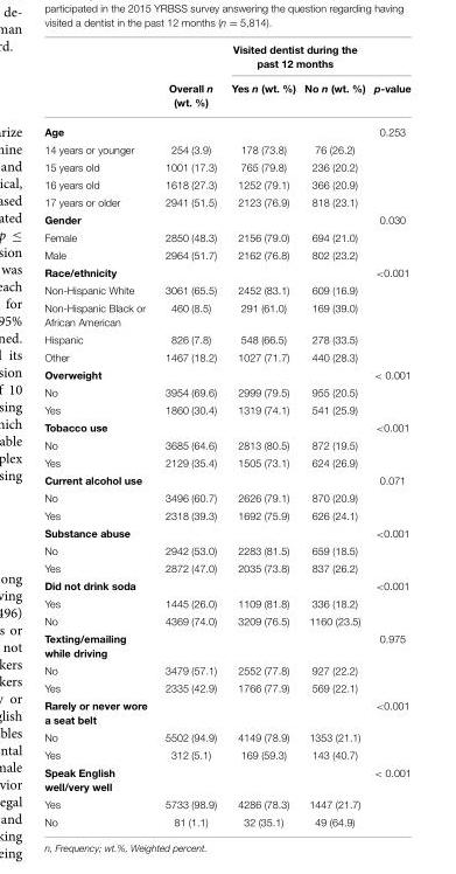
<table><thead><tr><td rowspan="2"></td><td rowspan="2">Overall n (wt. %)</td><td colspan="3">Visited dentist during the past 12 months</td></tr><tr><td>Yes n (wt. %)</td><td>No n (wt. %)</td><td>p-value</td></tr></thead><tbody><tr><td>Age</td><td></td><td></td><td></td><td>0.253</td></tr><tr><td>14 years or younger</td><td>254 (3.9)</td><td>178 (73.8)</td><td>76 (26.2)</td><td></td></tr><tr><td>15 years old</td><td>1001 (17.3)</td><td>765 (79.8)</td><td>236 (20.2)</td><td></td></tr><tr><td>16 years old</td><td>1618 (27.3)</td><td>1252 (79.1)</td><td>366 (20.9)</td><td></td></tr><tr><td>17 years or older</td><td>2941 (51.5)</td><td>2123 (76.9)</td><td>818 (23.1)</td><td></td></tr><tr><td>Gender</td><td></td><td></td><td></td><td>0.030</td></tr><tr><td>Female</td><td>2850 (48.3)</td><td>2156 (79.0)</td><td>694 (21.0)</td><td></td></tr><tr><td>Male</td><td>2964 (51.7)</td><td>2162 (76.8)</td><td>802 (23.2)</td><td></td></tr><tr><td>Race/ethnicity</td><td></td><td></td><td></td><td>&lt;0.001</td></tr><tr><td>Non-Hispanic White</td><td>3061 (65.5)</td><td>2452 (83.1)</td><td>609 (16.9)</td><td></td></tr><tr><td>Non-Hispanic Black or African American</td><td>460 (8.5)</td><td>291 (61.0)</td><td>169 (39.0)</td><td></td></tr><tr><td>Hispanic</td><td>826 (7.8)</td><td>548 (66.5)</td><td>278 (33.5)</td><td></td></tr><tr><td>Other</td><td>1467 (18.2)</td><td>1027 (71.7)</td><td>440 (28.3)</td><td></td></tr><tr><td>Overweight</td><td></td><td></td><td></td><td>&lt; 0.001</td></tr><tr><td>No</td><td>3954 (69.6)</td><td>2999 (79.5)</td><td>955 (20.5)</td><td></td></tr><tr><td>Yes</td><td>1860 (30.4)</td><td>1319 (74.1)</td><td>541 (25.9)</td><td></td></tr><tr><td>Tobacco use</td><td></td><td></td><td></td><td>&lt;0.001</td></tr><tr><td>No</td><td>3685 (64.6)</td><td>2813 (80.5)</td><td>872 (19.5)</td><td></td></tr><tr><td>Yes</td><td>2129 (35.4)</td><td>1505 (73.1)</td><td>624 (26.9)</td><td></td></tr><tr><td>Current alcohol use</td><td></td><td></td><td></td><td>0.071</td></tr><tr><td>No</td><td>3496 (60.7)</td><td>2626 (79.1)</td><td>870 (20.9)</td><td></td></tr><tr><td>Yes</td><td>2318 (39.3)</td><td>1692 (75.9)</td><td>626 (24.1)</td><td></td></tr><tr><td>Substance abuse</td><td></td><td></td><td></td><td>&lt;0.001</td></tr><tr><td>No</td><td>2942 (53.0)</td><td>2283 (81.5)</td><td>659 (18.5)</td><td></td></tr><tr><td>Yes</td><td>2872 (47.0)</td><td>2035 (73.8)</td><td>837 (26.2)</td><td></td></tr><tr><td>Did not drink soda</td><td></td><td></td><td></td><td>&lt;0.001</td></tr><tr><td>Yes</td><td>1445 (26.0)</td><td>1109 (81.8)</td><td>336 (18.2)</td><td></td></tr><tr><td>No</td><td>4369 (74.0)</td><td>3209 (76.5)</td><td>1160 (23.5)</td><td></td></tr><tr><td>Texting/emailing while driving</td><td></td><td></td><td></td><td>0.975</td></tr><tr><td>No</td><td>3479 (57.1)</td><td>2552 (77.8)</td><td>927 (22.2)</td><td></td></tr><tr><td>Yes</td><td>2335 (42.9)</td><td>1766 (77.9)</td><td>569 (22.1)</td><td></td></tr><tr><td>Rarely or never wore a seat belt</td><td></td><td></td><td></td><td>&lt;0.001</td></tr><tr><td>No</td><td>5502 (94.9)</td><td>4149 (78.9)</td><td>1353 (21.1)</td><td></td></tr><tr><td>Yes</td><td>312 (5.1)</td><td>169 (59.3)</td><td>143 (40.7)</td><td></td></tr><tr><td>Speak English well/very well</td><td></td><td></td><td></td><td>&lt; 0.001</td></tr><tr><td>Yes</td><td>5733 (98.9)</td><td>4286 (78.3)</td><td>1447 (21.7)</td><td></td></tr><tr><td>No</td><td>81 (1.1)</td><td>32 (35.1)</td><td>49 (64.9)</td><td></td></tr></tbody></table>